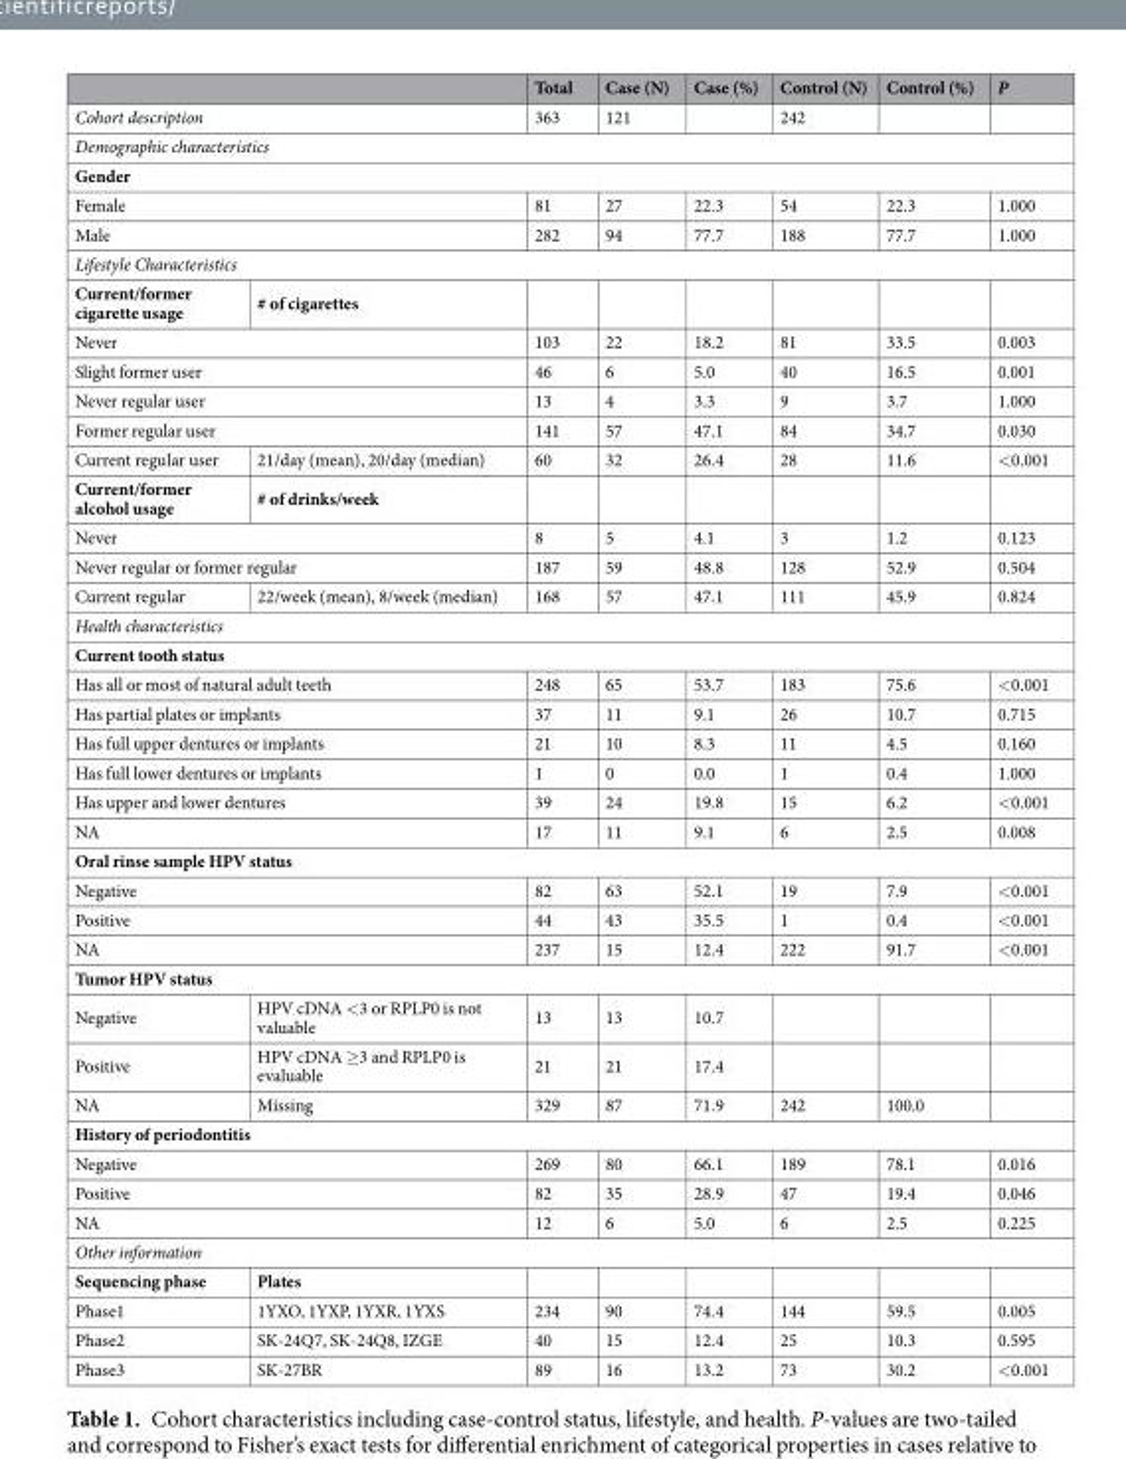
<table><thead><tr><td></td><td></td><td>Total</td><td>Case (N)</td><td>Case (%)</td><td>Control (N)</td><td>Control (%)</td><td>P</td></tr></thead><tbody><tr><td colspan="2">Cohort description</td><td>363</td><td>121</td><td></td><td>242</td><td></td><td></td></tr><tr><td colspan="8">Demographic characteristics</td></tr><tr><td colspan="8">Gender</td></tr><tr><td colspan="2">Female</td><td>81</td><td>27</td><td>22.3</td><td>54</td><td>22.3</td><td>1.000</td></tr><tr><td colspan="2">Male</td><td>282</td><td>94</td><td>77.7</td><td>188</td><td>77.7</td><td>1.000</td></tr><tr><td colspan="8">Lifestyle Characteristics</td></tr><tr><td>Current/former cigarette usage</td><td># of cigarettes</td><td></td><td></td><td></td><td></td><td></td><td></td></tr><tr><td colspan="2">Never</td><td>103</td><td>22</td><td>18.2</td><td>81</td><td>33.5</td><td>0.003</td></tr><tr><td colspan="2">Slight former user</td><td>46</td><td>6</td><td>5.0</td><td>40</td><td>16.5</td><td>0.001</td></tr><tr><td colspan="2">Never regular user</td><td>13</td><td>4</td><td>3.3</td><td>9</td><td>3.7</td><td>1.000</td></tr><tr><td colspan="2">Former regular user</td><td>141</td><td>57</td><td>47.1</td><td>84</td><td>34.7</td><td>0.030</td></tr><tr><td>Current regular user</td><td>21/day (mean), 20/day (median)</td><td>60</td><td>32</td><td>26.4</td><td>28</td><td>11.6</td><td>&lt;0.001</td></tr><tr><td>Current/former alcohol usage</td><td># of drinks/week</td><td></td><td></td><td></td><td></td><td></td><td></td></tr><tr><td colspan="2">Never</td><td>8</td><td>5</td><td>4.1</td><td>3</td><td>1.2</td><td>0.123</td></tr><tr><td colspan="2">Never regular or former regular</td><td>187</td><td>59</td><td>48.8</td><td>128</td><td>52.9</td><td>0.504</td></tr><tr><td>Current regular</td><td>22/week (mean), 8/week (median)</td><td>168</td><td>57</td><td>47.1</td><td>111</td><td>45.9</td><td>0.824</td></tr><tr><td colspan="8">Health characteristics</td></tr><tr><td colspan="8">Current tooth status</td></tr><tr><td colspan="2">Has all or most of natural adult teeth</td><td>248</td><td>65</td><td>53.7</td><td>183</td><td>75.6</td><td>&lt;0.001</td></tr><tr><td colspan="2">Has partial plates or implants</td><td>37</td><td>11</td><td>9.1</td><td>26</td><td>10.7</td><td>0.715</td></tr><tr><td colspan="2">Has full upper dentures or implants</td><td>21</td><td>10</td><td>8.3</td><td>11</td><td>4.5</td><td>0.160</td></tr><tr><td colspan="2">Has full lower dentures or implants</td><td>1</td><td>0</td><td>0.0</td><td>1</td><td>0.4</td><td>1.000</td></tr><tr><td colspan="2">Has upper and lower dentures</td><td>39</td><td>24</td><td>19.8</td><td>15</td><td>6.2</td><td>&lt;0.001</td></tr><tr><td colspan="2">NA</td><td>17</td><td>11</td><td>9.1</td><td>6</td><td>2.5</td><td>0.008</td></tr><tr><td colspan="8">Oral rinse sample HPV status</td></tr><tr><td colspan="2">Negative</td><td>82</td><td>63</td><td>52.1</td><td>19</td><td>7.9</td><td>&lt;0.001</td></tr><tr><td colspan="2">Positive</td><td>44</td><td>43</td><td>35.5</td><td>1</td><td>0.4</td><td>&lt;0.001</td></tr><tr><td colspan="2">NA</td><td>237</td><td>15</td><td>12.4</td><td>222</td><td>91.7</td><td>&lt;0.001</td></tr><tr><td colspan="8">Tumor HPV status</td></tr><tr><td>Negative</td><td>HPV cDNA &lt;3 or RPLP0 is not valuable</td><td>13</td><td>13</td><td>10.7</td><td></td><td></td><td></td></tr><tr><td>Positive</td><td>HPV cDNA ≥3 and RPLP0 is evaluable</td><td>21</td><td>21</td><td>17.4</td><td></td><td></td><td></td></tr><tr><td>NA</td><td>Missing</td><td>329</td><td>87</td><td>71.9</td><td>242</td><td>100.0</td><td></td></tr><tr><td colspan="8">History of periodontitis</td></tr><tr><td colspan="2">Negative</td><td>269</td><td>80</td><td>66.1</td><td>189</td><td>78.1</td><td>0.016</td></tr><tr><td colspan="2">Positive</td><td>82</td><td>35</td><td>28.9</td><td>47</td><td>19.4</td><td>0.046</td></tr><tr><td colspan="2">NA</td><td>12</td><td>6</td><td>5.0</td><td>6</td><td>2.5</td><td>0.225</td></tr><tr><td colspan="8">Other information</td></tr><tr><td>Sequencing phase</td><td>Plates</td><td></td><td></td><td></td><td></td><td></td><td></td></tr><tr><td>Phase1</td><td>1YXO, 1YXP, 1YXR, 1YXS</td><td>234</td><td>90</td><td>74.4</td><td>144</td><td>59.5</td><td>0.005</td></tr><tr><td>Phase2</td><td>SK-24Q7, SK-24Q8, IZGE</td><td>40</td><td>15</td><td>12.4</td><td>25</td><td>10.3</td><td>0.595</td></tr><tr><td>Phase3</td><td>SK-27BR</td><td>89</td><td>16</td><td>13.2</td><td>73</td><td>30.2</td><td>&lt;0.001</td></tr></tbody></table>